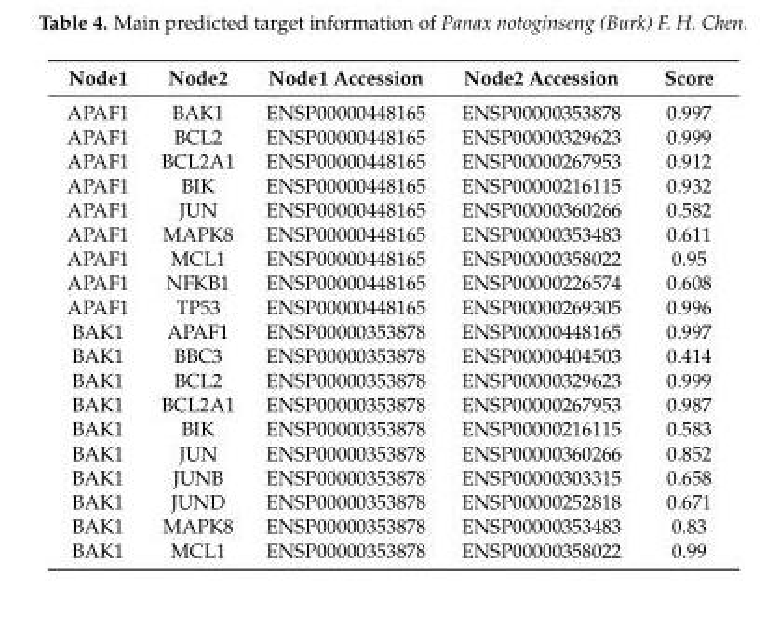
<table><thead><tr><td>Node1</td><td>Node2</td><td>Node1 Accession</td><td>Node2 Accession</td><td>Score</td></tr></thead><tbody><tr><td>APAF1</td><td>BAK1</td><td>ENSP00000448165</td><td>ENSP00000353878</td><td>0.997</td></tr><tr><td>APAF1</td><td>BCL2</td><td>ENSP00000448165</td><td>ENSP00000329623</td><td>0.999</td></tr><tr><td>APAF1</td><td>BCL2A1</td><td>ENSP00000448165</td><td>ENSP00000267953</td><td>0.912</td></tr><tr><td>APAF1</td><td>BIK</td><td>ENSP00000448165</td><td>ENSP00000216115</td><td>0.932</td></tr><tr><td>APAF1</td><td>JUN</td><td>ENSP00000448165</td><td>ENSP00000360266</td><td>0.582</td></tr><tr><td>APAF1</td><td>MAPK8</td><td>ENSP00000448165</td><td>ENSP00000353483</td><td>0.611</td></tr><tr><td>APAF1</td><td>MCL1</td><td>ENSP00000448165</td><td>ENSP00000358022</td><td>0.95</td></tr><tr><td>APAF1</td><td>NFKB1</td><td>ENSP00000448165</td><td>ENSP00000226574</td><td>0.608</td></tr><tr><td>APAF1</td><td>TP53</td><td>ENSP00000448165</td><td>ENSP00000269305</td><td>0.996</td></tr><tr><td>BAK1</td><td>APAF1</td><td>ENSP00000353878</td><td>ENSP00000448165</td><td>0.997</td></tr><tr><td>BAK1</td><td>BBC3</td><td>ENSP00000353878</td><td>ENSP00000404503</td><td>0.414</td></tr><tr><td>BAK1</td><td>BCL2</td><td>ENSP00000353878</td><td>ENSP00000329623</td><td>0.999</td></tr><tr><td>BAK1</td><td>BCL2A1</td><td>ENSP00000353878</td><td>ENSP00000267953</td><td>0.987</td></tr><tr><td>BAK1</td><td>BIK</td><td>ENSP00000353878</td><td>ENSP00000216115</td><td>0.583</td></tr><tr><td>BAK1</td><td>JUN</td><td>ENSP00000353878</td><td>ENSP00000360266</td><td>0.852</td></tr><tr><td>BAK1</td><td>JUNB</td><td>ENSP00000353878</td><td>ENSP00000303315</td><td>0.658</td></tr><tr><td>BAK1</td><td>JUND</td><td>ENSP00000353878</td><td>ENSP00000252818</td><td>0.671</td></tr><tr><td>BAK1</td><td>MAPK8</td><td>ENSP00000353878</td><td>ENSP00000353483</td><td>0.83</td></tr><tr><td>BAK1</td><td>MCL1</td><td>ENSP00000353878</td><td>ENSP00000358022</td><td>0.99</td></tr></tbody></table>